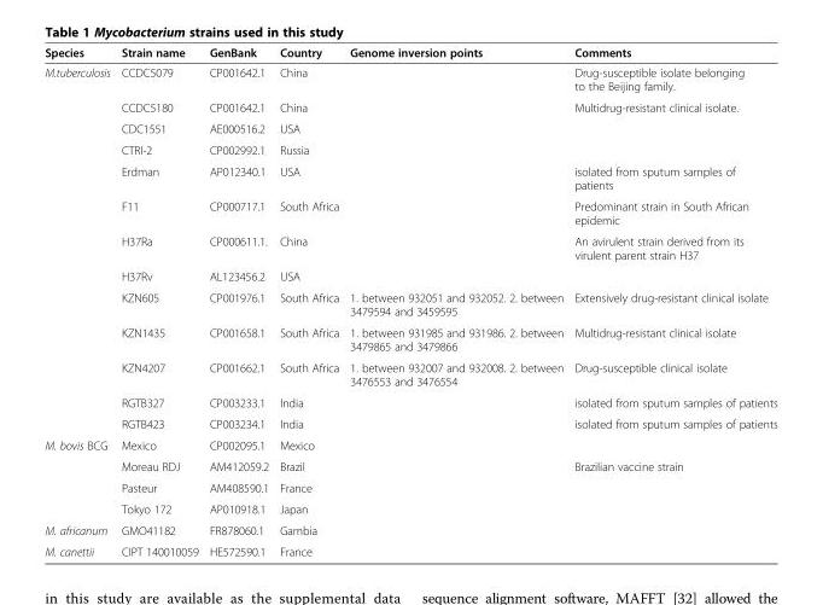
<table><thead><tr><td>Species</td><td>Strain name</td><td>GenBank</td><td>Country</td><td>Genome inversion points</td><td>Comments</td></tr></thead><tbody><tr><td rowspan="13">M.tuberculosis</td><td>CCDC5079</td><td>CP001642.1</td><td>China</td><td></td><td>Drug-susceptible isolate belonging to the Beijing family.</td></tr><tr><td>CCDC5180</td><td>CP001642.1</td><td>China</td><td></td><td>Multidrug-resistant clinical isolate.</td></tr><tr><td>CDC1551</td><td>AE000516.2</td><td>USA</td><td></td><td></td></tr><tr><td>CTRI-2</td><td>CP002992.1</td><td>Russia</td><td></td><td></td></tr><tr><td>Erdman</td><td>AP012340.1</td><td>USA</td><td></td><td>isolated from sputum samples of patients</td></tr><tr><td>F11</td><td>CP000717.1</td><td>South Africa</td><td></td><td>Predominant strain in South African epidemic</td></tr><tr><td>H37Ra</td><td>CP000611.1.</td><td>China</td><td></td><td>An avirulent strain derived from its virulent parent strain H37</td></tr><tr><td>H37Rv</td><td>AL123456.2</td><td>USA</td><td></td><td></td></tr><tr><td>KZN605</td><td>CP001976.1</td><td>South Africa</td><td>1. between 932051 and 932052. 2. between 3479594 and 3459595</td><td>Extensively drug-resistant clinical isolate</td></tr><tr><td>KZN1435</td><td>CP001658.1</td><td>South Africa</td><td>1. between 931985 and 931986. 2. between 3479865 and 3479866</td><td>Multidrug-resistant clinical isolate</td></tr><tr><td>KZN4207</td><td>CP001662.1</td><td>South Africa</td><td>1. between 932007 and 932008. 2. between 3476553 and 3476554</td><td>Drug-susceptible clinical isolate</td></tr><tr><td>RGTB327</td><td>CP003233.1</td><td>India</td><td></td><td>isolated from sputum samples of patients</td></tr><tr><td>RGTB423</td><td>CP003234.1</td><td>India</td><td></td><td>isolated from sputum samples of patients</td></tr><tr><td rowspan="4">M. bovis BCG</td><td>Mexico</td><td>CP002095.1</td><td>Mexico</td><td></td><td></td></tr><tr><td>Moreau RDJ</td><td>AM412059.2</td><td>Brazil</td><td></td><td>Brazilian vaccine strain</td></tr><tr><td>Pasteur</td><td>AM408590.1</td><td>France</td><td></td><td></td></tr><tr><td>Tokyo 172</td><td>AP010918.1</td><td>Japan</td><td></td><td></td></tr><tr><td>M. africanum</td><td>GMO41182</td><td>FR878060.1</td><td>Gambia</td><td></td><td></td></tr><tr><td>M. canettii</td><td>CIPT 140010059</td><td>HE572590.1</td><td>France</td><td></td><td></td></tr></tbody></table>